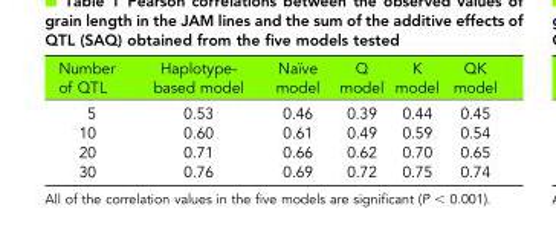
<table><thead><tr><td>Number of QTL</td><td>Haplotype- based model</td><td>Naïve model</td><td>Q model</td><td>K model</td><td>QK model</td></tr></thead><tbody><tr><td>5</td><td>0.53</td><td>0.46</td><td>0.39</td><td>0.44</td><td>0.45</td></tr><tr><td>10</td><td>0.60</td><td>0.61</td><td>0.49</td><td>0.59</td><td>0.54</td></tr><tr><td>20</td><td>0.71</td><td>0.66</td><td>0.62</td><td>0.70</td><td>0.65</td></tr><tr><td>30</td><td>0.76</td><td>0.69</td><td>0.72</td><td>0.75</td><td>0.74</td></tr></tbody></table>